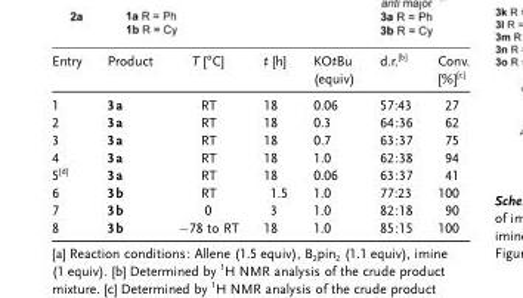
<table><thead><tr><td>Entry</td><td>Product</td><td>T [°C]</td><td>t [h]</td><td>KOtBu (equiv)</td><td>d.r.<sup>[b]</sup></td><td>Conv. [%]<sup>[c]</sup></td></tr></thead><tbody><tr><td>1</td><td>3a</td><td>RT</td><td>18</td><td>0.06</td><td>57:43</td><td>27</td></tr><tr><td>2</td><td>3a</td><td>RT</td><td>18</td><td>0.3</td><td>64:36</td><td>62</td></tr><tr><td>3</td><td>3a</td><td>RT</td><td>18</td><td>0.7</td><td>63:37</td><td>75</td></tr><tr><td>4</td><td>3a</td><td>RT</td><td>18</td><td>1.0</td><td>62:38</td><td>94</td></tr><tr><td>5<sup>[d]</sup></td><td>3a</td><td>RT</td><td>18</td><td>0.06</td><td>63:37</td><td>41</td></tr><tr><td>6</td><td>3b</td><td>RT</td><td>1.5</td><td>1.0</td><td>77:23</td><td>100</td></tr><tr><td>7</td><td>3b</td><td>0</td><td>3</td><td>1.0</td><td>82:18</td><td>90</td></tr><tr><td>8</td><td>3b</td><td>−78 to RT</td><td>18</td><td>1.0</td><td>85:15</td><td>100</td></tr></tbody></table>